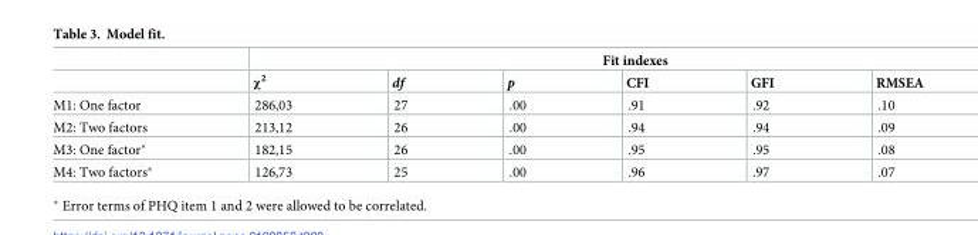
<table><thead><tr><td rowspan="2"></td><td colspan="6">Fit indexes</td></tr><tr><td>χ<sup>2</sup></td><td>df</td><td>p</td><td>CFI</td><td>GFI</td><td>RMSEA</td></tr></thead><tbody><tr><td>M1: One factor</td><td>286,03</td><td>27</td><td>.00</td><td>.91</td><td>.92</td><td>.10</td></tr><tr><td>M2: Two factors</td><td>213,12</td><td>26</td><td>.00</td><td>.94</td><td>.94</td><td>.09</td></tr><tr><td>M3: One factor*</td><td>182,15</td><td>26</td><td>.00</td><td>.95</td><td>.95</td><td>.08</td></tr><tr><td>M4: Two factors*</td><td>126,73</td><td>25</td><td>.00</td><td>.96</td><td>.97</td><td>.07</td></tr></tbody></table>